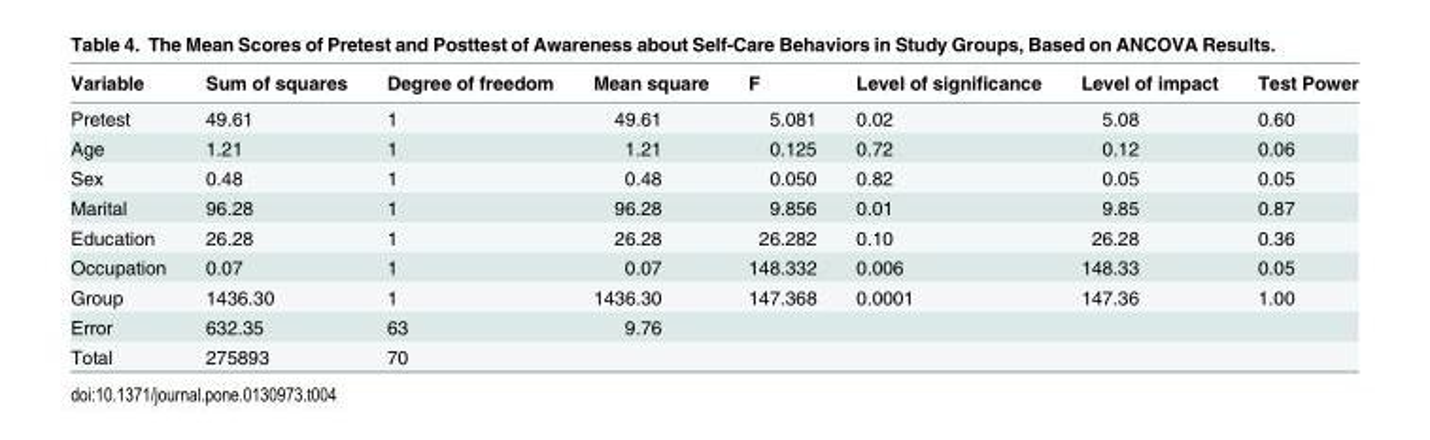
<table><thead><tr><td>Variable</td><td>Sum of squares</td><td>Degree of freedom</td><td>Mean square</td><td>F</td><td>Level of significance</td><td>Level of impact</td><td>Test Power</td></tr></thead><tbody><tr><td>Pretest</td><td>49.61</td><td>1</td><td>49.61</td><td>5.081</td><td>0.02</td><td>5.08</td><td>0.60</td></tr><tr><td>Age</td><td>1.21</td><td>1</td><td>1.21</td><td>0.125</td><td>0.72</td><td>0.12</td><td>0.06</td></tr><tr><td>Sex</td><td>0.48</td><td>1</td><td>0.48</td><td>0.050</td><td>0.82</td><td>0.05</td><td>0.05</td></tr><tr><td>Marital</td><td>96.28</td><td>1</td><td>96.28</td><td>9.856</td><td>0.01</td><td>9.85</td><td>0.87</td></tr><tr><td>Education</td><td>26.28</td><td>1</td><td>26.28</td><td>26.282</td><td>0.10</td><td>26.28</td><td>0.36</td></tr><tr><td>Occupation</td><td>0.07</td><td>1</td><td>0.07</td><td>148.332</td><td>0.006</td><td>148.33</td><td>0.05</td></tr><tr><td>Group</td><td>1436.30</td><td>1</td><td>1436.30</td><td>147.368</td><td>0.0001</td><td>147.36</td><td>1.00</td></tr><tr><td>Error</td><td>632.35</td><td>63</td><td>9.76</td><td></td><td></td><td></td><td></td></tr><tr><td>Total</td><td>275893</td><td>70</td><td></td><td></td><td></td><td></td><td></td></tr></tbody></table>